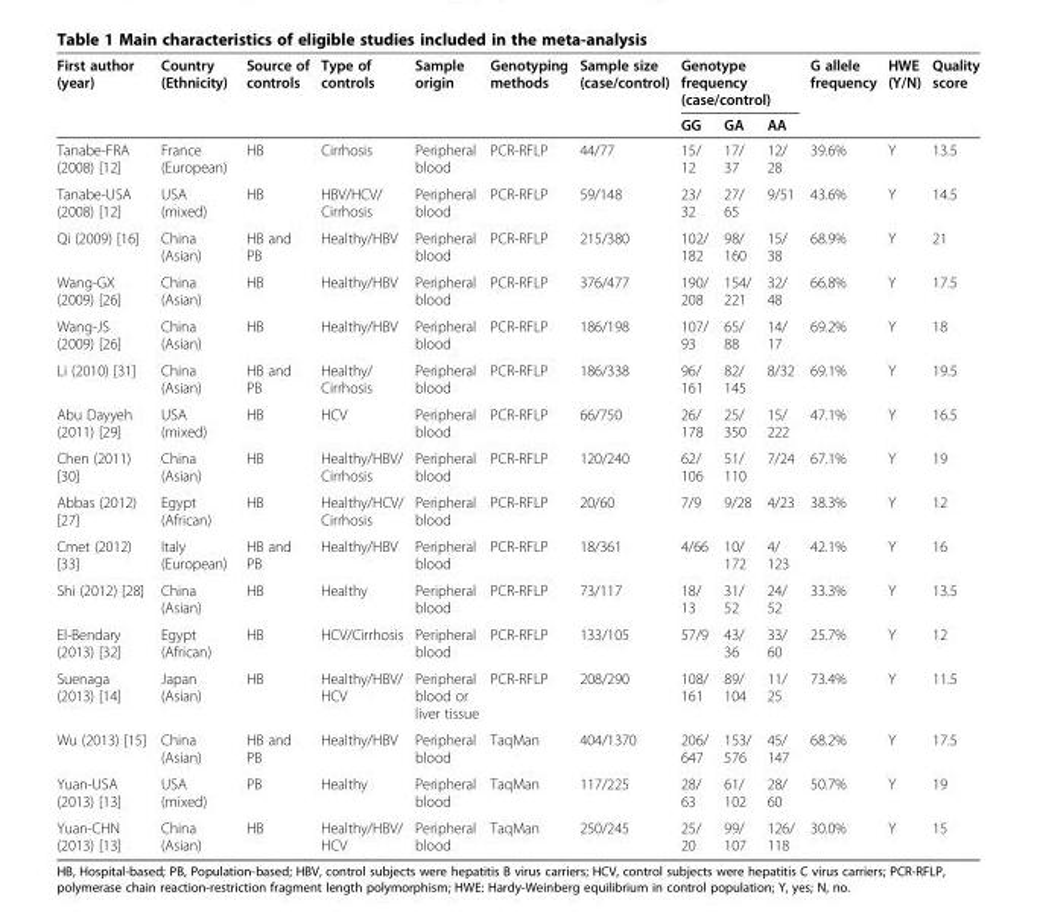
<table><thead><tr><td rowspan="2">First author (year)</td><td rowspan="2">Country (Ethnicity)</td><td rowspan="2">Source of controls</td><td rowspan="2">Type of controls</td><td rowspan="2">Sample origin</td><td rowspan="2">Genotyping methods</td><td rowspan="2">Sample size (case/control)</td><td colspan="3">Genotype frequency (case/control)</td><td rowspan="2">G allele frequency</td><td rowspan="2">HWE (Y/N)</td><td rowspan="2">Quality score</td></tr><tr><td>GG</td><td>GA</td><td>AA</td></tr></thead><tbody><tr><td>Tanabe-FRA (2008) [12]</td><td>France (European)</td><td>HB</td><td>Cirrhosis</td><td>Peripheral blood</td><td>PCR-RFLP</td><td>44/77</td><td>15/ 12</td><td>17/ 37</td><td>12/ 28</td><td>39.6%</td><td>Y</td><td>13.5</td></tr><tr><td>Tanabe-USA (2008) [12]</td><td>USA (mixed)</td><td>HB</td><td>HBV/HCV/ Cirrhosis</td><td>Peripheral blood</td><td>PCR-RFLP</td><td>59/148</td><td>23/ 32</td><td>27/ 65</td><td>9/51</td><td>43.6%</td><td>Y</td><td>14.5</td></tr><tr><td>Qi (2009) [16]</td><td>China (Asian)</td><td>HB and PB</td><td>Healthy/HBV</td><td>Peripheral blood</td><td>PCR-RFLP</td><td>215/380</td><td>102/ 182</td><td>98/ 160</td><td>15/ 38</td><td>68.9%</td><td>Y</td><td>21</td></tr><tr><td>Wang-GX (2009) [26]</td><td>China (Asian)</td><td>HB</td><td>Healthy/HBV</td><td>Peripheral blood</td><td>PCR-RFLP</td><td>376/477</td><td>190/ 208</td><td>154/ 221</td><td>32/ 48</td><td>66.8%</td><td>Y</td><td>17.5</td></tr><tr><td>Wang-JS (2009) [26]</td><td>China (Asian)</td><td>HB</td><td>Healthy/HBV</td><td>Peripheral blood</td><td>PCR-RFLP</td><td>186/198</td><td>107/ 93</td><td>65/ 88</td><td>14/ 17</td><td>69.2%</td><td>Y</td><td>18</td></tr><tr><td>Li (2010) [31]</td><td>China (Asian)</td><td>HB and PB</td><td>Healthy/ Cirrhosis</td><td>Peripheral blood</td><td>PCR-RFLP</td><td>186/338</td><td>96/ 161</td><td>82/ 145</td><td>8/32</td><td>69.1%</td><td>Y</td><td>19.5</td></tr><tr><td>Abu Dayyeh (2011) [29]</td><td>USA (mixed)</td><td>HB</td><td>HCV</td><td>Peripheral blood</td><td>PCR-RFLP</td><td>66/750</td><td>26/ 178</td><td>25/ 350</td><td>15/ 222</td><td>47.1%</td><td>Y</td><td>16.5</td></tr><tr><td>Chen (2011) [30]</td><td>China (Asian)</td><td>HB</td><td>Healthy/HBV/ Cirrhosis</td><td>Peripheral blood</td><td>PCR-RFLP</td><td>120/240</td><td>62/ 106</td><td>51/ 110</td><td>7/24</td><td>67.1%</td><td>Y</td><td>19</td></tr><tr><td>Abbas (2012) [27]</td><td>Egypt (African)</td><td>HB</td><td>Healthy/HCV/ Cirrhosis</td><td>Peripheral blood</td><td>PCR-RFLP</td><td>20/60</td><td>7/9</td><td>9/28</td><td>4/23</td><td>38.3%</td><td>Y</td><td>12</td></tr><tr><td>Cmet (2012) [33]</td><td>Italy (European)</td><td>HB and PB</td><td>Healthy/HBV</td><td>Peripheral blood</td><td>PCR-RFLP</td><td>18/361</td><td>4/66</td><td>10/ 172</td><td>4/ 123</td><td>42.1%</td><td>Y</td><td>16</td></tr><tr><td>Shi (2012) [28]</td><td>China (Asian)</td><td>HB</td><td>Healthy</td><td>Peripheral blood</td><td>PCR-RFLP</td><td>73/117</td><td>18/ 13</td><td>31/ 52</td><td>24/ 52</td><td>33.3%</td><td>Y</td><td>13.5</td></tr><tr><td>El-Bendary (2013) [32]</td><td>Egypt (African)</td><td>HB</td><td>HCV/Cirrhosis</td><td>Peripheral blood</td><td>PCR-RFLP</td><td>133/105</td><td>57/9</td><td>43/ 36</td><td>33/ 60</td><td>25.7%</td><td>Y</td><td>12</td></tr><tr><td>Suenaga (2013) [14]</td><td>Japan (Asian)</td><td>HB</td><td>Healthy/HBV/ HCV</td><td>Peripheral blood or liver tissue</td><td>PCR-RFLP</td><td>208/290</td><td>108/ 161</td><td>89/ 104</td><td>11/ 25</td><td>73.4%</td><td>Y</td><td>11.5</td></tr><tr><td>Wu (2013) [15]</td><td>China (Asian)</td><td>HB and PB</td><td>Healthy/HBV</td><td>Peripheral blood</td><td>TaqMan</td><td>404/1370</td><td>206/ 647</td><td>153/ 576</td><td>45/ 147</td><td>68.2%</td><td>Y</td><td>17.5</td></tr><tr><td>Yuan-USA (2013) [13]</td><td>USA (mixed)</td><td>PB</td><td>Healthy</td><td>Peripheral blood</td><td>TaqMan</td><td>117/225</td><td>28/ 63</td><td>61/ 102</td><td>28/ 60</td><td>50.7%</td><td>Y</td><td>19</td></tr><tr><td>Yuan-CHN (2013) [13]</td><td>China (Asian)</td><td>HB</td><td>Healthy/HBV/ HCV</td><td>Peripheral blood</td><td>TaqMan</td><td>250/245</td><td>25/ 20</td><td>99/ 107</td><td>126/ 118</td><td>30.0%</td><td>Y</td><td>15</td></tr></tbody></table>